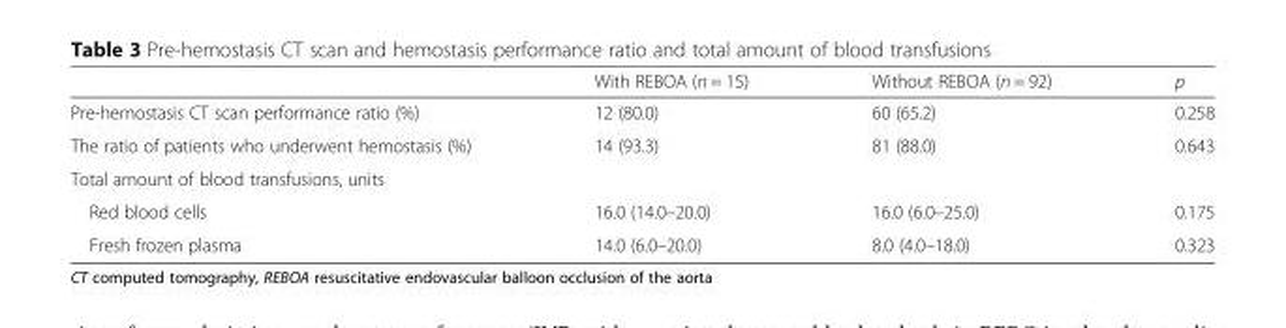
<table><thead><tr><td></td><td>With REBOA (n = 15)</td><td>Without REBOA (n = 92)</td><td>p</td></tr></thead><tbody><tr><td>Pre-hemostasis CT scan performance ratio (%)</td><td>12 (80.0)</td><td>60 (65.2)</td><td>0.258</td></tr><tr><td>The ratio of patients who underwent hemostasis (%)</td><td>14 (93.3)</td><td>81 (88.0)</td><td>0.643</td></tr><tr><td colspan="4">Total amount of blood transfusions, units</td></tr><tr><td>Red blood cells</td><td>16.0 (14.0–20.0)</td><td>16.0 (6.0–25.0)</td><td>0.175</td></tr><tr><td>Fresh frozen plasma</td><td>14.0 (6.0–20.0)</td><td>8.0 (4.0–18.0)</td><td>0.323</td></tr></tbody></table>